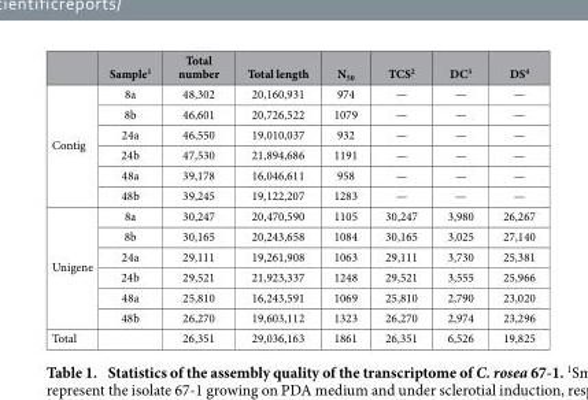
<table><thead><tr><td></td><td>Sample<sup>1</sup></td><td>Total number</td><td>Total length</td><td>N<sub>50</sub></td><td>TCS<sup>2</sup></td><td>DC<sup>3</sup></td><td>DS<sup>4</sup></td></tr></thead><tbody><tr><td rowspan="6">Contig</td><td>8a</td><td>48,302</td><td>20,160,931</td><td>974</td><td>—</td><td>—</td><td>—</td></tr><tr><td>8b</td><td>46,601</td><td>20,726,522</td><td>1079</td><td>—</td><td>—</td><td>—</td></tr><tr><td>24a</td><td>46,550</td><td>19,010,037</td><td>932</td><td>—</td><td>—</td><td>—</td></tr><tr><td>24b</td><td>47,530</td><td>21,894,686</td><td>1191</td><td>—</td><td>—</td><td>—</td></tr><tr><td>48a</td><td>39,178</td><td>16,046,611</td><td>958</td><td>—</td><td>—</td><td>—</td></tr><tr><td>48b</td><td>39,245</td><td>19,122,207</td><td>1283</td><td>—</td><td>—</td><td>—</td></tr><tr><td rowspan="6">Unigene</td><td>8a</td><td>30,247</td><td>20,470,590</td><td>1105</td><td>30,247</td><td>3,980</td><td>26,267</td></tr><tr><td>8b</td><td>30,165</td><td>20,243,658</td><td>1084</td><td>30,165</td><td>3,025</td><td>27,140</td></tr><tr><td>24a</td><td>29,111</td><td>19,261,908</td><td>1063</td><td>29,111</td><td>3,730</td><td>25,381</td></tr><tr><td>24b</td><td>29,521</td><td>21,923,337</td><td>1248</td><td>29,521</td><td>3,555</td><td>25,966</td></tr><tr><td>48a</td><td>25,810</td><td>16,243,591</td><td>1069</td><td>25,810</td><td>2,790</td><td>23,020</td></tr><tr><td>48b</td><td>26,270</td><td>19,603,112</td><td>1323</td><td>26,270</td><td>2,974</td><td>23,296</td></tr><tr><td>Total</td><td></td><td>26,351</td><td>29,036,163</td><td>1861</td><td>26,351</td><td>6,526</td><td>19,825</td></tr></tbody></table>